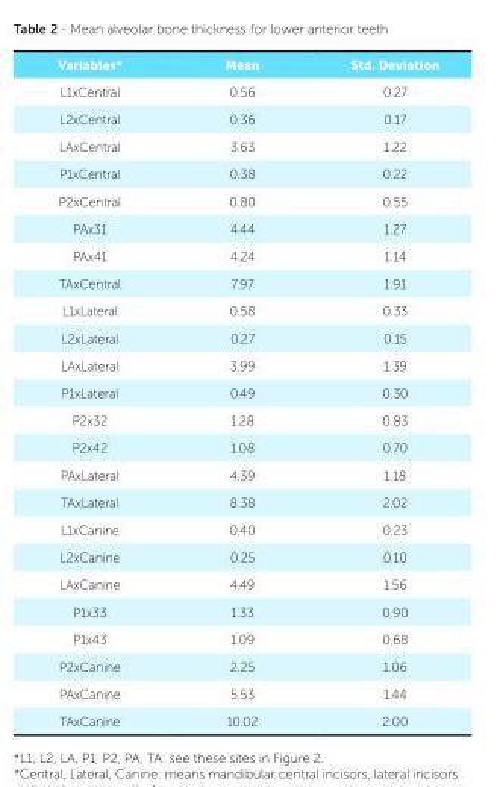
<table><tbody><tr><td>Variables*</td><td>Mean</td><td>Std. Deviation</td></tr><tr><td>L1xCentral</td><td>0.56</td><td>0.27</td></tr><tr><td>L2xCentral</td><td>0.36</td><td>0.17</td></tr><tr><td>LAxCentral</td><td>3.63</td><td>1.22</td></tr><tr><td>P1xCentral</td><td>0.38</td><td>0.22</td></tr><tr><td>P2xCentral</td><td>0.80</td><td>0.55</td></tr><tr><td>PAx31</td><td>4.44</td><td>1.27</td></tr><tr><td>PAx41</td><td>4.24</td><td>1.14</td></tr><tr><td>TAxCentral</td><td>7.97</td><td>1.91</td></tr><tr><td>L1xLateral</td><td>0.58</td><td>0.33</td></tr><tr><td>L2xLateral</td><td>0.27</td><td>0.15</td></tr><tr><td>LAxLateral</td><td>3.99</td><td>1.39</td></tr><tr><td>P1xLateral</td><td>0.49</td><td>0.30</td></tr><tr><td>P2x32</td><td>1.28</td><td>0.83</td></tr><tr><td>P2x42</td><td>1.08</td><td>0.70</td></tr><tr><td>PAxLateral</td><td>4.39</td><td>1.18</td></tr><tr><td>TAxLateral</td><td>8.38</td><td>2.02</td></tr><tr><td>L1xCanine</td><td>0.40</td><td>0.23</td></tr><tr><td>L2xCanine</td><td>0.25</td><td>0.10</td></tr><tr><td>LAxCanine</td><td>4.49</td><td>1.56</td></tr><tr><td>P1x33</td><td>1.33</td><td>0.90</td></tr><tr><td>P1x43</td><td>1.09</td><td>0.68</td></tr><tr><td>P2xCanine</td><td>2.25</td><td>1.06</td></tr><tr><td>PAxCanine</td><td>5.53</td><td>1.44</td></tr><tr><td>TAxCanine</td><td>10.02</td><td>2.00</td></tr></tbody></table>